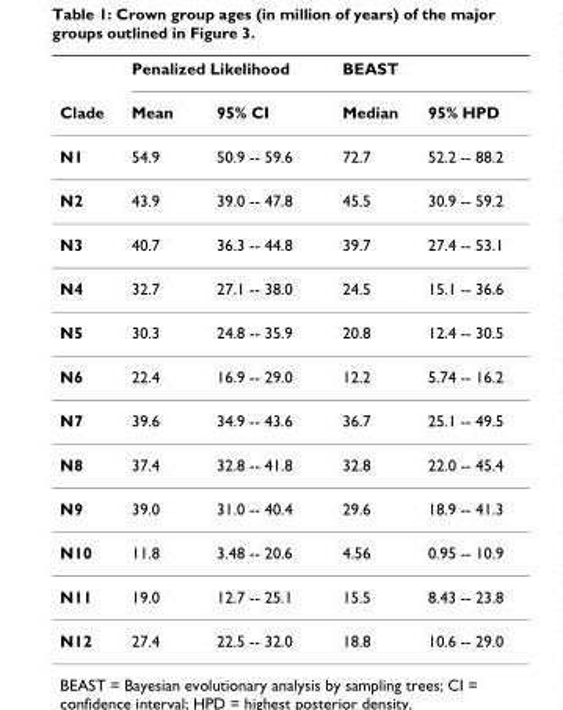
<table><thead><tr><td rowspan="2">Clade</td><td colspan="2">Penalized Likelihood</td><td colspan="2">BEAST</td></tr><tr><td>Mean</td><td>95% CI</td><td>Median</td><td>95% HPD</td></tr></thead><tbody><tr><td>N1</td><td>54.9</td><td>50.9 -- 59.6</td><td>72.7</td><td>52.2 -- 88.2</td></tr><tr><td>N2</td><td>43.9</td><td>39.0 -- 47.8</td><td>45.5</td><td>30.9 -- 59.2</td></tr><tr><td>N3</td><td>40.7</td><td>36.3 -- 44.8</td><td>39.7</td><td>27.4 -- 53.1</td></tr><tr><td>N4</td><td>32.7</td><td>27.1 -- 38.0</td><td>24.5</td><td>15.1 -- 36.6</td></tr><tr><td>N5</td><td>30.3</td><td>24.8 -- 35.9</td><td>20.8</td><td>12.4 -- 30.5</td></tr><tr><td>N6</td><td>22.4</td><td>16.9 -- 29.0</td><td>12.2</td><td>5.74 -- 16.2</td></tr><tr><td>N7</td><td>39.6</td><td>34.9 -- 43.6</td><td>36.7</td><td>25.1 -- 49.5</td></tr><tr><td>N8</td><td>37.4</td><td>32.8 -- 41.8</td><td>32.8</td><td>22.0 -- 45.4</td></tr><tr><td>N9</td><td>39.0</td><td>31.0 -- 40.4</td><td>29.6</td><td>18.9 -- 41.3</td></tr><tr><td>N10</td><td>11.8</td><td>3.48 -- 20.6</td><td>4.56</td><td>0.95 -- 10.9</td></tr><tr><td>N11</td><td>19.0</td><td>12.7 -- 25.1</td><td>15.5</td><td>8.43 -- 23.8</td></tr><tr><td>N12</td><td>27.4</td><td>22.5 -- 32.0</td><td>18.8</td><td>10.6 -- 29.0</td></tr></tbody></table>